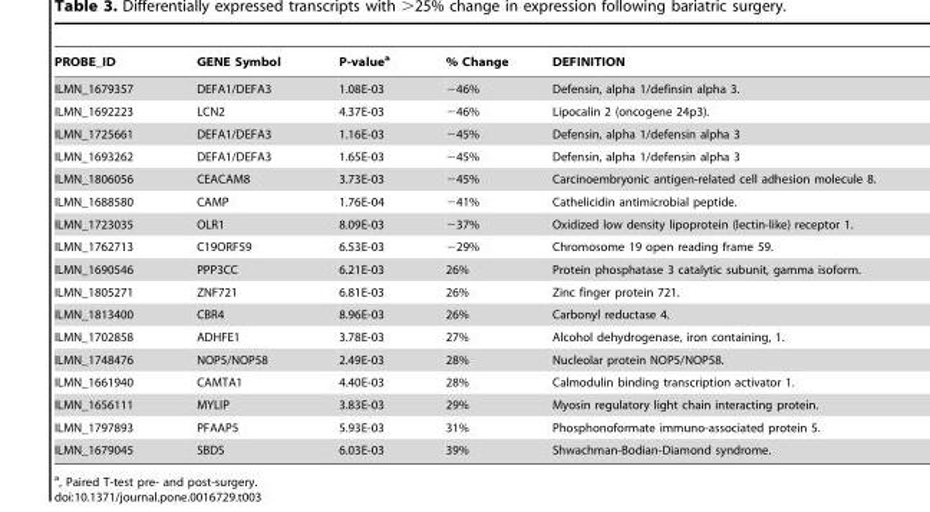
<table><thead><tr><td>PROBE_ID</td><td>GENE Symbol</td><td>P-value<sup>a</sup></td><td>% Change</td><td>DEFINITION</td></tr></thead><tbody><tr><td>ILMN_1679357</td><td>DEFA1/DEFA3</td><td>1.08E-03</td><td>−46%</td><td>Defensin, alpha 1/definsin alpha 3.</td></tr><tr><td>ILMN_1692223</td><td>LCN2</td><td>4.37E-03</td><td>−46%</td><td>Lipocalin 2 (oncogene 24p3).</td></tr><tr><td>ILMN_1725661</td><td>DEFA1/DEFA3</td><td>1.16E-03</td><td>−45%</td><td>Defensin, alpha 1/defensin alpha 3</td></tr><tr><td>ILMN_1693262</td><td>DEFA1/DEFA3</td><td>1.65E-03</td><td>−45%</td><td>Defensin, alpha 1/defensin alpha 3</td></tr><tr><td>ILMN_1806056</td><td>CEACAM8</td><td>3.73E-03</td><td>−45%</td><td>Carcinoembryonic antigen-related cell adhesion molecule 8.</td></tr><tr><td>ILMN_1688580</td><td>CAMP</td><td>1.76E-04</td><td>−41%</td><td>Cathelicidin antimicrobial peptide.</td></tr><tr><td>ILMN_1723035</td><td>OLR1</td><td>8.09E-03</td><td>−37%</td><td>Oxidized low density lipoprotein (lectin-like) receptor 1.</td></tr><tr><td>ILMN_1762713</td><td>C19ORF59</td><td>6.53E-03</td><td>−29%</td><td>Chromosome 19 open reading frame 59.</td></tr><tr><td>ILMN_1690546</td><td>PPP3CC</td><td>6.21E-03</td><td>26%</td><td>Protein phosphatase 3 catalytic subunit, gamma isoform.</td></tr><tr><td>ILMN_1805271</td><td>ZNF721</td><td>6.81E-03</td><td>26%</td><td>Zinc finger protein 721.</td></tr><tr><td>ILMN_1813400</td><td>CBR4</td><td>8.96E-03</td><td>26%</td><td>Carbonyl reductase 4.</td></tr><tr><td>ILMN_1702858</td><td>ADHFE1</td><td>3.78E-03</td><td>27%</td><td>Alcohol dehydrogenase, iron containing, 1.</td></tr><tr><td>ILMN_1748476</td><td>NOP5/NOP58</td><td>2.49E-03</td><td>28%</td><td>Nucleolar protein NOP5/NOP58.</td></tr><tr><td>ILMN_1661940</td><td>CAMTA1</td><td>4.40E-03</td><td>28%</td><td>Calmodulin binding transcription activator 1.</td></tr><tr><td>ILMN_1656111</td><td>MYLIP</td><td>3.83E-03</td><td>29%</td><td>Myosin regulatory light chain interacting protein.</td></tr><tr><td>ILMN_1797893</td><td>PFAAP5</td><td>5.93E-03</td><td>31%</td><td>Phosphonoformate immuno-associated protein 5.</td></tr><tr><td>ILMN_1679045</td><td>SBDS</td><td>6.03E-03</td><td>39%</td><td>Shwachman-Bodian-Diamond syndrome.</td></tr></tbody></table>